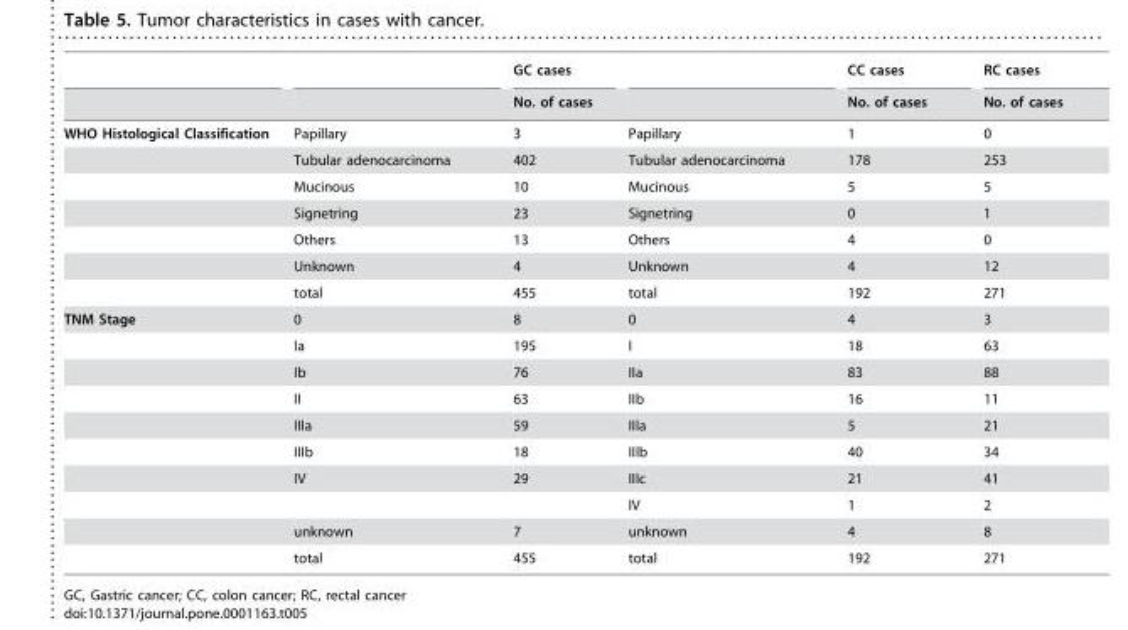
<table><thead><tr><td rowspan="2"></td><td rowspan="2"></td><td rowspan="2">GC cases No. of cases</td><td rowspan="2"></td><td rowspan="2">CC cases No. of cases</td><td rowspan="2">RC cases No. of cases</td></tr><tr></tr></thead><tbody><tr><td rowspan="7">WHO Histological Classification</td><td>Papillary</td><td>3</td><td>Papillary</td><td>1</td><td>0</td></tr><tr><td>Tubular adenocarcinoma</td><td>402</td><td>Tubular adenocarcinoma</td><td>178</td><td>253</td></tr><tr><td>Mucinous</td><td>10</td><td>Mucinous</td><td>5</td><td>5</td></tr><tr><td>Signetring</td><td>23</td><td>Signetring</td><td>0</td><td>1</td></tr><tr><td>Others</td><td>13</td><td>Others</td><td>4</td><td>0</td></tr><tr><td>Unknown</td><td>4</td><td>Unknown</td><td>4</td><td>12</td></tr><tr><td>total</td><td>455</td><td>total</td><td>192</td><td>271</td></tr><tr><td rowspan="10">TNM Stage</td><td>0</td><td>8</td><td>0</td><td>4</td><td>3</td></tr><tr><td>Ia</td><td>195</td><td>I</td><td>18</td><td>63</td></tr><tr><td>Ib</td><td>76</td><td>IIa</td><td>83</td><td>88</td></tr><tr><td>II</td><td>63</td><td>IIb</td><td>16</td><td>11</td></tr><tr><td>IIIa</td><td>59</td><td>IIIa</td><td>5</td><td>21</td></tr><tr><td>IIIb</td><td>18</td><td>IIIb</td><td>40</td><td>34</td></tr><tr><td>IV</td><td>29</td><td>IIIc</td><td>21</td><td>41</td></tr><tr><td></td><td></td><td>IV</td><td>1</td><td>2</td></tr><tr><td>unknown</td><td>7</td><td>unknown</td><td>4</td><td>8</td></tr><tr><td>total</td><td>455</td><td>total</td><td>192</td><td>271</td></tr></tbody></table>